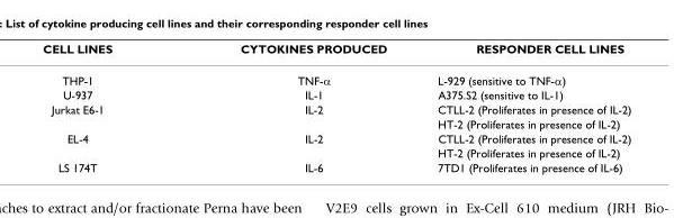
<table><thead><tr><td>CELL LINES</td><td>CYTOKINES PRODUCED</td><td>RESPONDER CELL LINES</td></tr></thead><tbody><tr><td>THP-1</td><td>TNF-α</td><td>L-929 (sensitive to TNF-α)</td></tr><tr><td>U-937</td><td>IL-1</td><td>A375.S2 (sensitive to IL-1)</td></tr><tr><td rowspan="2">Jurkat E6-1</td><td>IL-2</td><td>CTLL-2 (Proliferates in presence of IL-2)</td></tr><tr><td></td><td>HT-2 (Proliferates in presence of IL-2)</td></tr><tr><td rowspan="2">EL-4</td><td>IL-2</td><td>CTLL-2 (Proliferates in presence of IL-2)</td></tr><tr><td></td><td>HT-2 (Proliferates in presence of IL-2)</td></tr><tr><td>LS 174T</td><td>IL-6</td><td>7TD1 (Proliferates in presence of IL-6)</td></tr></tbody></table>